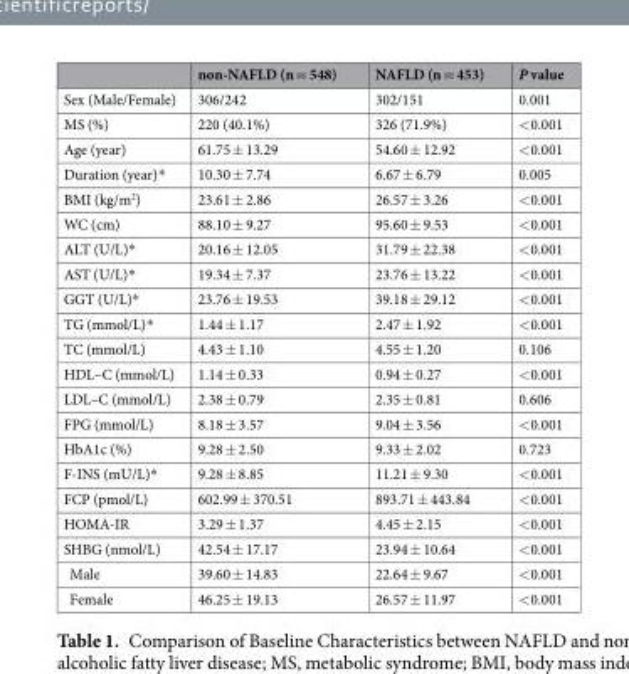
<table><thead><tr><td></td><td>non-NAFLD (n = 548)</td><td>NAFLD (n = 453)</td><td>P value</td></tr></thead><tbody><tr><td>Sex (Male/Female)</td><td>306/242</td><td>302/151</td><td>0.001</td></tr><tr><td>MS (%)</td><td>220 (40.1%)</td><td>326 (71.9%)</td><td>&lt;0.001</td></tr><tr><td>Age (year)</td><td>61.75 ± 13.29</td><td>54.60 ± 12.92</td><td>&lt;0.001</td></tr><tr><td>Duration (year)*</td><td>10.30 ± 7.74</td><td>6.67 ± 6.79</td><td>0.005</td></tr><tr><td>BMI (kg/m<sup>2</sup>)</td><td>23.61 ± 2.86</td><td>26.57 ± 3.26</td><td>&lt;0.001</td></tr><tr><td>WC (cm)</td><td>88.10 ± 9.27</td><td>95.60 ± 9.53</td><td>&lt;0.001</td></tr><tr><td>ALT (U/L)*</td><td>20.16 ± 12.05</td><td>31.79 ± 22.38</td><td>&lt;0.001</td></tr><tr><td>AST (U/L)*</td><td>19.34 ± 7.37</td><td>23.76 ± 13.22</td><td>&lt;0.001</td></tr><tr><td>GGT (U/L)*</td><td>23.76 ± 19.53</td><td>39.18 ± 29.12</td><td>&lt;0.001</td></tr><tr><td>TG (mmol/L)*</td><td>1.44 ± 1.17</td><td>2.47 ± 1.92</td><td>&lt;0.001</td></tr><tr><td>TC (mmol/L)</td><td>4.43 ± 1.10</td><td>4.55 ± 1.20</td><td>0.106</td></tr><tr><td>HDL–C (mmol/L)</td><td>1.14 ± 0.33</td><td>0.94 ± 0.27</td><td>&lt;0.001</td></tr><tr><td>LDL–C (mmol/L)</td><td>2.38 ± 0.79</td><td>2.35 ± 0.81</td><td>0.606</td></tr><tr><td>FPG (mmol/L)</td><td>8.18 ± 3.57</td><td>9.04 ± 3.56</td><td>&lt;0.001</td></tr><tr><td>HbA1c (%)</td><td>9.28 ± 2.50</td><td>9.33 ± 2.02</td><td>0.723</td></tr><tr><td>F-INS (mU/L)*</td><td>9.28 ± 8.85</td><td>11.21 ± 9.30</td><td>&lt;0.001</td></tr><tr><td>FCP (pmol/L)</td><td>602.99 ± 370.51</td><td>893.71 ± 443.84</td><td>&lt;0.001</td></tr><tr><td>HOMA-IR</td><td>3.29 ± 1.37</td><td>4.45 ± 2.15</td><td>&lt;0.001</td></tr><tr><td>SHBG (nmol/L)</td><td>42.54 ± 17.17</td><td>23.94 ± 10.64</td><td>&lt;0.001</td></tr><tr><td>Male</td><td>39.60 ± 14.83</td><td>22.64 ± 9.67</td><td>&lt;0.001</td></tr><tr><td>Female</td><td>46.25 ± 19.13</td><td>26.57 ± 11.97</td><td>&lt;0.001</td></tr></tbody></table>